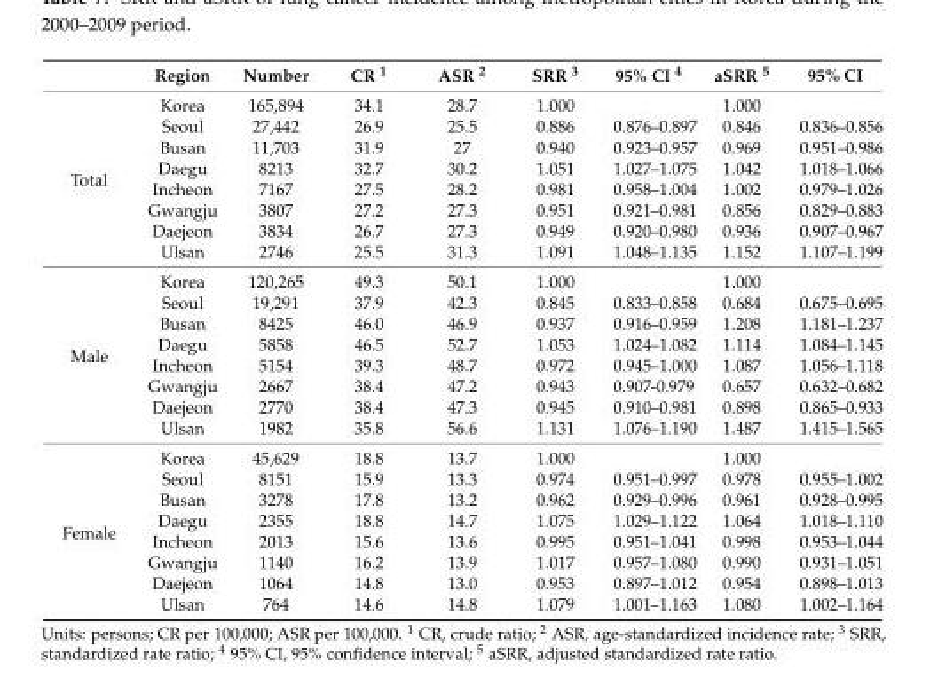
<table><thead><tr><td></td><td>Region</td><td>Number</td><td>CR <sup>1</sup></td><td>ASR <sup>2</sup></td><td>SRR <sup>3</sup></td><td>95% CI <sup>4</sup></td><td>aSRR <sup>5</sup></td><td>95% CI</td></tr></thead><tbody><tr><td rowspan="8">Total</td><td>Korea</td><td>165,894</td><td>34.1</td><td>28.7</td><td>1.000</td><td></td><td>1.000</td><td></td></tr><tr><td>Seoul</td><td>27,442</td><td>26.9</td><td>25.5</td><td>0.886</td><td>0.876–0.897</td><td>0.846</td><td>0.836–0.856</td></tr><tr><td>Busan</td><td>11,703</td><td>31.9</td><td>27</td><td>0.940</td><td>0.923–0.957</td><td>0.969</td><td>0.951–0.986</td></tr><tr><td>Daegu</td><td>8213</td><td>32.7</td><td>30.2</td><td>1.051</td><td>1.027–1.075</td><td>1.042</td><td>1.018–1.066</td></tr><tr><td>Incheon</td><td>7167</td><td>27.5</td><td>28.2</td><td>0.981</td><td>0.958–1.004</td><td>1.002</td><td>0.979–1.026</td></tr><tr><td>Gwangju</td><td>3807</td><td>27.2</td><td>27.3</td><td>0.951</td><td>0.921–0.981</td><td>0.856</td><td>0.829–0.883</td></tr><tr><td>Daejeon</td><td>3834</td><td>26.7</td><td>27.3</td><td>0.949</td><td>0.920–0.980</td><td>0.936</td><td>0.907–0.967</td></tr><tr><td>Ulsan</td><td>2746</td><td>25.5</td><td>31.3</td><td>1.091</td><td>1.048–1.135</td><td>1.152</td><td>1.107–1.199</td></tr><tr><td rowspan="8">Male</td><td>Korea</td><td>120,265</td><td>49.3</td><td>50.1</td><td>1.000</td><td></td><td>1.000</td><td></td></tr><tr><td>Seoul</td><td>19,291</td><td>37.9</td><td>42.3</td><td>0.845</td><td>0.833–0.858</td><td>0.684</td><td>0.675–0.695</td></tr><tr><td>Busan</td><td>8425</td><td>46.0</td><td>46.9</td><td>0.937</td><td>0.916–0.959</td><td>1.208</td><td>1.181–1.237</td></tr><tr><td>Daegu</td><td>5858</td><td>46.5</td><td>52.7</td><td>1.053</td><td>1.024–1.082</td><td>1.114</td><td>1.084–1.145</td></tr><tr><td>Incheon</td><td>5154</td><td>39.3</td><td>48.7</td><td>0.972</td><td>0.945–1.000</td><td>1.087</td><td>1.056–1.118</td></tr><tr><td>Gwangju</td><td>2667</td><td>38.4</td><td>47.2</td><td>0.943</td><td>0.907-0.979</td><td>0.657</td><td>0.632–0.682</td></tr><tr><td>Daejeon</td><td>2770</td><td>38.4</td><td>47.3</td><td>0.945</td><td>0.910–0.981</td><td>0.898</td><td>0.865–0.933</td></tr><tr><td>Ulsan</td><td>1982</td><td>35.8</td><td>56.6</td><td>1.131</td><td>1.076–1.190</td><td>1.487</td><td>1.415–1.565</td></tr><tr><td rowspan="8">Female</td><td>Korea</td><td>45,629</td><td>18.8</td><td>13.7</td><td>1.000</td><td></td><td>1.000</td><td></td></tr><tr><td>Seoul</td><td>8151</td><td>15.9</td><td>13.3</td><td>0.974</td><td>0.951–0.997</td><td>0.978</td><td>0.955–1.002</td></tr><tr><td>Busan</td><td>3278</td><td>17.8</td><td>13.2</td><td>0.962</td><td>0.929–0.996</td><td>0.961</td><td>0.928–0.995</td></tr><tr><td>Daegu</td><td>2355</td><td>18.8</td><td>14.7</td><td>1.075</td><td>1.029–1.122</td><td>1.064</td><td>1.018–1.110</td></tr><tr><td>Incheon</td><td>2013</td><td>15.6</td><td>13.6</td><td>0.995</td><td>0.951–1.041</td><td>0.998</td><td>0.953–1.044</td></tr><tr><td>Gwangju</td><td>1140</td><td>16.2</td><td>13.9</td><td>1.017</td><td>0.957–1.080</td><td>0.990</td><td>0.931–1.051</td></tr><tr><td>Daejeon</td><td>1064</td><td>14.8</td><td>13.0</td><td>0.953</td><td>0.897–1.012</td><td>0.954</td><td>0.898–1.013</td></tr><tr><td>Ulsan</td><td>764</td><td>14.6</td><td>14.8</td><td>1.079</td><td>1.001–1.163</td><td>1.080</td><td>1.002–1.164</td></tr></tbody></table>